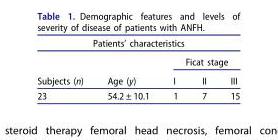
<table><thead><tr><td colspan="5">Patients’ characteristics</td></tr><tr><td rowspan="2">Subjects (n)</td><td rowspan="2">Age (y)</td><td colspan="3">Ficat stage</td></tr><tr><td>I</td><td>II</td><td>III</td></tr></thead><tbody><tr><td>23</td><td>54.2 ± 10.1</td><td>1</td><td>7</td><td>15</td></tr></tbody></table>